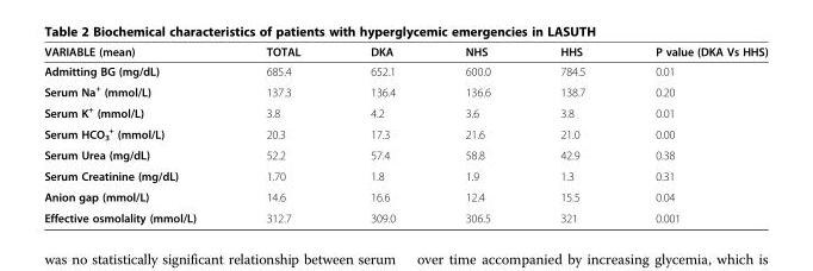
<table><thead><tr><td>VARIABLE (mean)</td><td>TOTAL</td><td>DKA</td><td>NHS</td><td>HHS</td><td>P value (DKA Vs HHS)</td></tr></thead><tbody><tr><td>Admitting BG (mg/dL)</td><td>685.4</td><td>652.1</td><td>600.0</td><td>784.5</td><td>0.01</td></tr><tr><td>Serum Na<sup>+</sup> (mmol/L)</td><td>137.3</td><td>136.4</td><td>136.6</td><td>138.7</td><td>0.20</td></tr><tr><td>Serum K<sup>+</sup> (mmol/L)</td><td>3.8</td><td>4.2</td><td>3.6</td><td>3.8</td><td>0.01</td></tr><tr><td>Serum HCO<sub>3</sub> <sup>+</sup> (mmol/L)</td><td>20.3</td><td>17.3</td><td>21.6</td><td>21.0</td><td>0.00</td></tr><tr><td>Serum Urea (mg/dL)</td><td>52.2</td><td>57.4</td><td>58.8</td><td>42.9</td><td>0.38</td></tr><tr><td>Serum Creatinine (mg/dL)</td><td>1.70</td><td>1.8</td><td>1.9</td><td>1.3</td><td>0.31</td></tr><tr><td>Anion gap (mmol/L)</td><td>14.6</td><td>16.6</td><td>12.4</td><td>15.5</td><td>0.04</td></tr><tr><td>Effective osmolality (mmol/L)</td><td>312.7</td><td>309.0</td><td>306.5</td><td>321</td><td>0.001</td></tr></tbody></table>